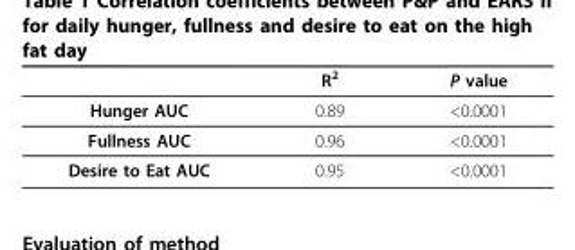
<table><thead><tr><td></td><td>R<sup>2</sup></td><td>P value</td></tr></thead><tbody><tr><td>Hunger AUC</td><td>0.89</td><td>&lt;0.0001</td></tr><tr><td>Fullness AUC</td><td>0.96</td><td>&lt;0.0001</td></tr><tr><td>Desire to Eat AUC</td><td>0.95</td><td>&lt;0.0001</td></tr></tbody></table>